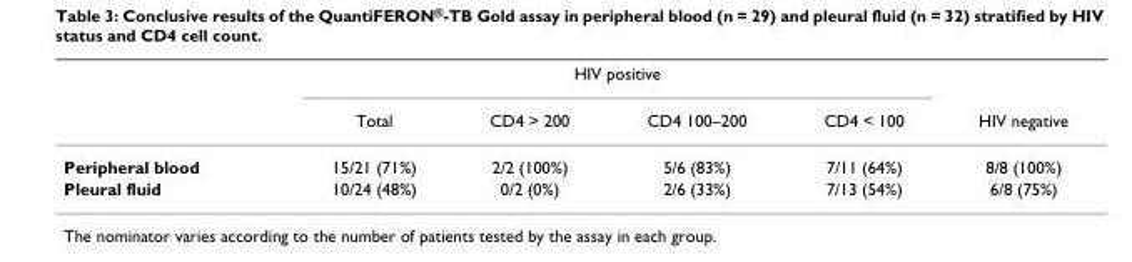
<table><thead><tr><td rowspan="2"></td><td colspan="4">HIV positive</td><td rowspan="2">HIV negative</td></tr><tr><td>Total</td><td>CD4 &gt; 200</td><td>CD4 100–200</td><td>CD4 &lt; 100</td></tr></thead><tbody><tr><td>Peripheral blood</td><td>15/21 (71%)</td><td>2/2 (100%)</td><td>5/6 (83%)</td><td>7/11 (64%)</td><td>8/8 (100%)</td></tr><tr><td>Pleural fluid</td><td>10/24 (48%)</td><td>0/2 (0%)</td><td>2/6 (33%)</td><td>7/13 (54%)</td><td>6/8 (75%)</td></tr></tbody></table>